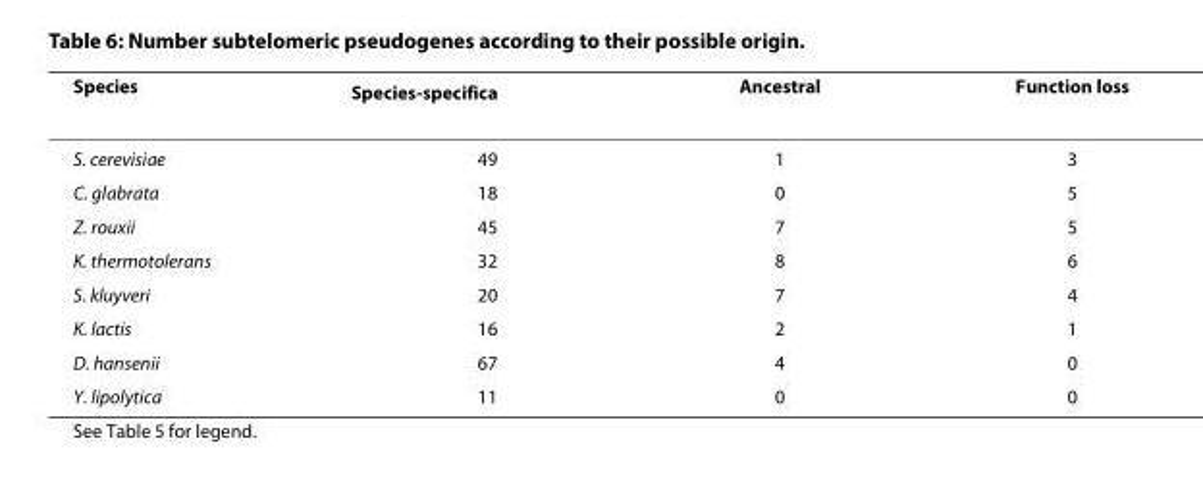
<table><thead><tr><td>Species</td><td>Species-specific<sup>a</sup></td><td>Ancestral</td><td>Function loss</td></tr></thead><tbody><tr><td>S. cerevisiae</td><td>49</td><td>1</td><td>3</td></tr><tr><td>C. glabrata</td><td>18</td><td>0</td><td>5</td></tr><tr><td>Z. rouxii</td><td>45</td><td>7</td><td>5</td></tr><tr><td>K. thermotolerans</td><td>32</td><td>8</td><td>6</td></tr><tr><td>S. kluyveri</td><td>20</td><td>7</td><td>4</td></tr><tr><td>K. lactis</td><td>16</td><td>2</td><td>1</td></tr><tr><td>D. hansenii</td><td>67</td><td>4</td><td>0</td></tr><tr><td>Y. lipolytica</td><td>11</td><td>0</td><td>0</td></tr></tbody></table>